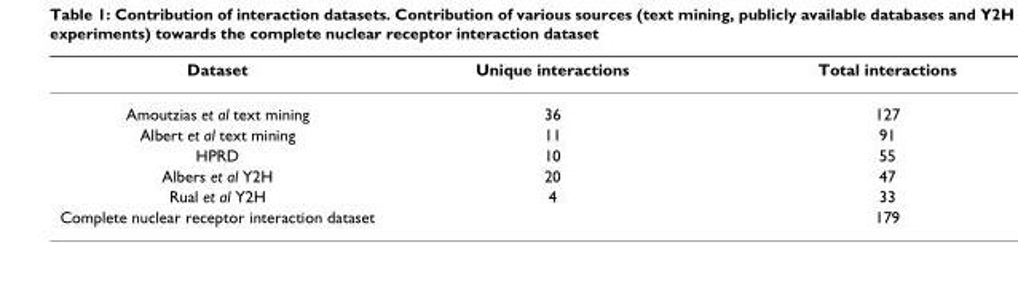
<table><thead><tr><td>Dataset</td><td>Unique interactions</td><td>Total interactions</td></tr></thead><tbody><tr><td>Amoutzias et al text mining</td><td>36</td><td>127</td></tr><tr><td>Albert et al text mining</td><td>11</td><td>91</td></tr><tr><td>HPRD</td><td>10</td><td>55</td></tr><tr><td>Albers et al Y2H</td><td>20</td><td>47</td></tr><tr><td>Rual et al Y2H</td><td>4</td><td>33</td></tr><tr><td>Complete nuclear receptor interaction dataset</td><td></td><td>179</td></tr></tbody></table>